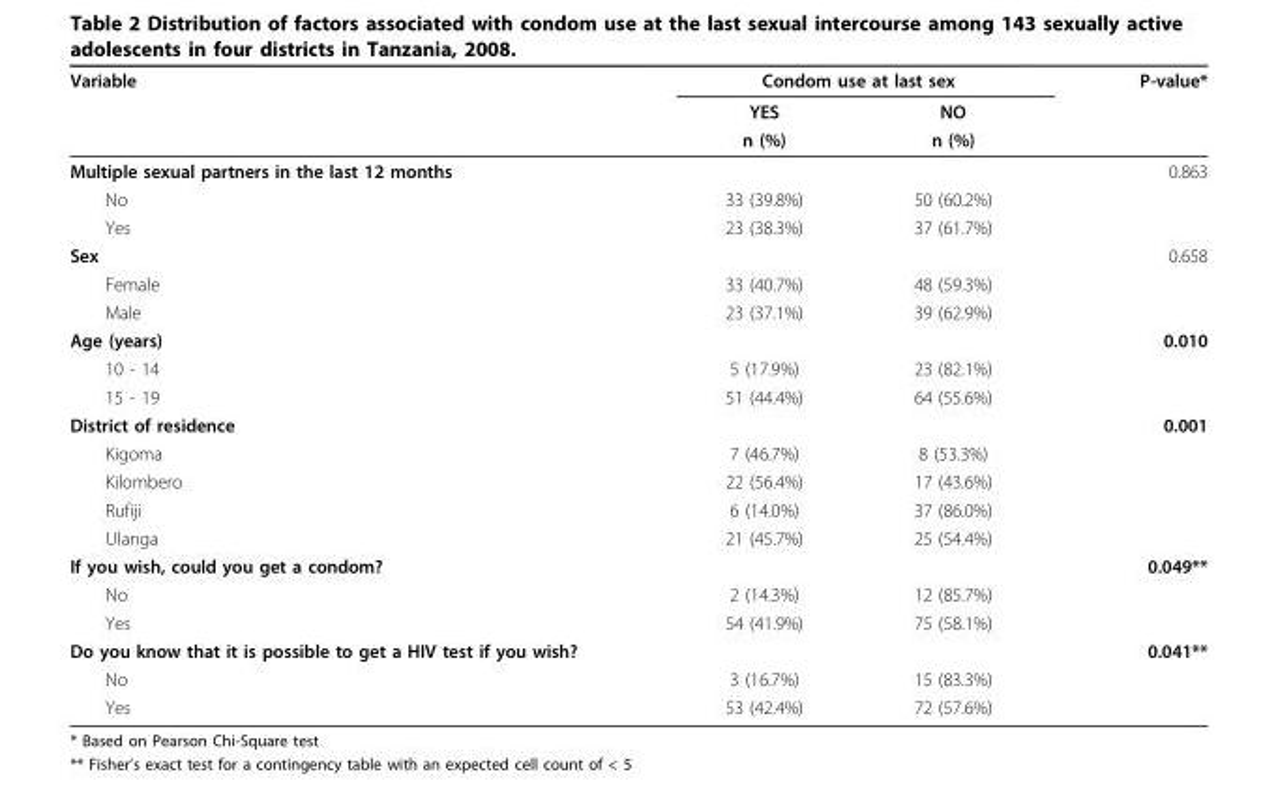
<table><thead><tr><td rowspan="3">Variable</td><td colspan="2">Condom use at last sex</td><td rowspan="3">P-value*</td></tr><tr><td rowspan="2">YES n (%)</td><td rowspan="2">NO n (%)</td></tr><tr></tr></thead><tbody><tr><td>Multiple sexual partners in the last 12 months</td><td></td><td></td><td>0.863</td></tr><tr><td>No</td><td>33 (39.8%)</td><td>50 (60.2%)</td><td></td></tr><tr><td>Yes</td><td>23 (38.3%)</td><td>37 (61.7%)</td><td></td></tr><tr><td>Sex</td><td></td><td></td><td>0.658</td></tr><tr><td>Female</td><td>33 (40.7%)</td><td>48 (59.3%)</td><td></td></tr><tr><td>Male</td><td>23 (37.1%)</td><td>39 (62.9%)</td><td></td></tr><tr><td>Age (years)</td><td></td><td></td><td>0.010</td></tr><tr><td>10 - 14</td><td>5 (17.9%)</td><td>23 (82.1%)</td><td></td></tr><tr><td>15 - 19</td><td>51 (44.4%)</td><td>64 (55.6%)</td><td></td></tr><tr><td>District of residence</td><td></td><td></td><td>0.001</td></tr><tr><td>Kigoma</td><td>7 (46.7%)</td><td>8 (53.3%)</td><td></td></tr><tr><td>Kilombero</td><td>22 (56.4%)</td><td>17 (43.6%)</td><td></td></tr><tr><td>Rufiji</td><td>6 (14.0%)</td><td>37 (86.0%)</td><td></td></tr><tr><td>Ulanga</td><td>21 (45.7%)</td><td>25 (54.4%)</td><td></td></tr><tr><td>If you wish, could you get a condom?</td><td></td><td></td><td>0.049**</td></tr><tr><td>No</td><td>2 (14.3%)</td><td>12 (85.7%)</td><td></td></tr><tr><td>Yes</td><td>54 (41.9%)</td><td>75 (58.1%)</td><td></td></tr><tr><td>Do you know that it is possible to get a HIV test if you wish?</td><td></td><td></td><td>0.041**</td></tr><tr><td>No</td><td>3 (16.7%)</td><td>15 (83.3%)</td><td></td></tr><tr><td>Yes</td><td>53 (42.4%)</td><td>72 (57.6%)</td><td></td></tr></tbody></table>